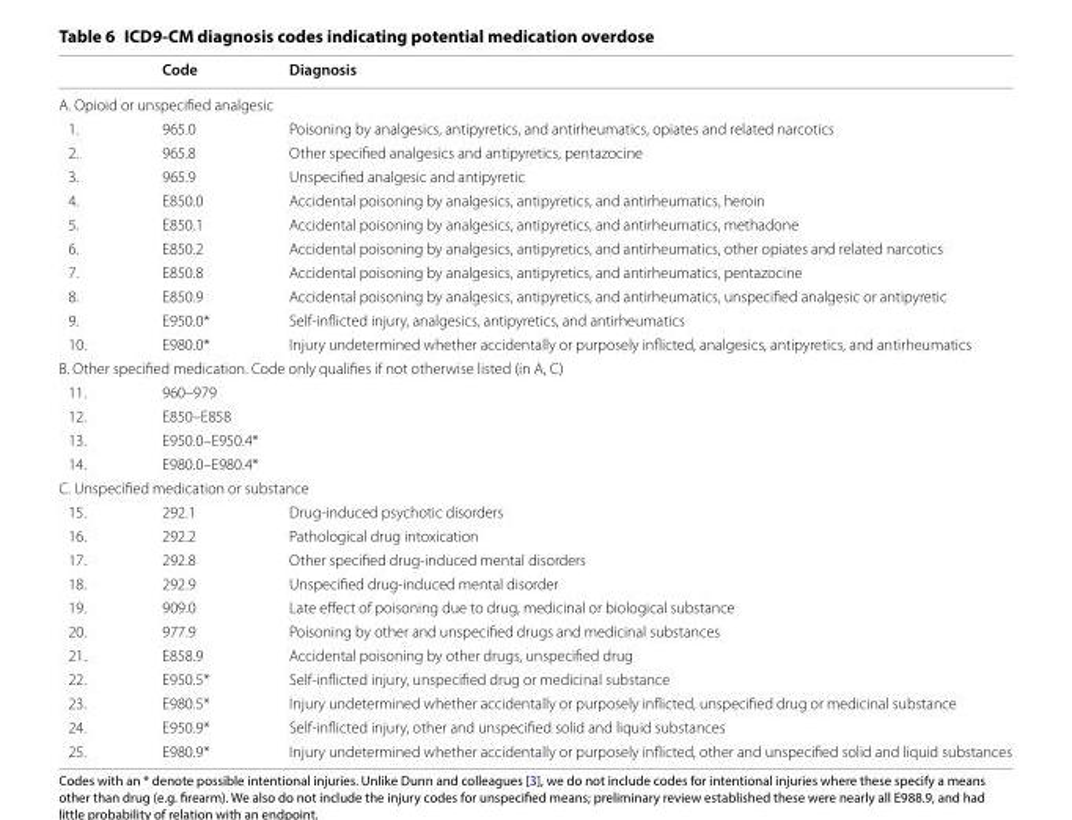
<table><thead><tr><td></td><td>Code</td><td>Diagnosis</td></tr></thead><tbody><tr><td colspan="3">A. Opioid or unspecified analgesic</td></tr><tr><td>1.</td><td>965.0</td><td>Poisoning by analgesics, antipyretics, and antirheumatics, opiates and related narcotics</td></tr><tr><td>2.</td><td>965.8</td><td>Other specified analgesics and antipyretics, pentazocine</td></tr><tr><td>3.</td><td>965.9</td><td>Unspecified analgesic and antipyretic</td></tr><tr><td>4.</td><td>E850.0</td><td>Accidental poisoning by analgesics, antipyretics, and antirheumatics, heroin</td></tr><tr><td>5.</td><td>E850.1</td><td>Accidental poisoning by analgesics, antipyretics, and antirheumatics, methadone</td></tr><tr><td>6.</td><td>E850.2</td><td>Accidental poisoning by analgesics, antipyretics, and antirheumatics, other opiates and related narcotics</td></tr><tr><td>7.</td><td>E850.8</td><td>Accidental poisoning by analgesics, antipyretics, and antirheumatics, pentazocine</td></tr><tr><td>8.</td><td>E850.9</td><td>Accidental poisoning by analgesics, antipyretics, and antirheumatics, unspecified analgesic or antipyretic</td></tr><tr><td>9.</td><td>E950.0*</td><td>Self-inflicted injury, analgesics, antipyretics, and antirheumatics</td></tr><tr><td>10.</td><td>E980.0*</td><td>Injury undetermined whether accidentally or purposely inflicted, analgesics, antipyretics, and antirheumatics</td></tr><tr><td colspan="3">B. Other specified medication. Code only qualifies if not otherwise listed (in A, C)</td></tr><tr><td>11.</td><td colspan="2">960–979</td></tr><tr><td>12.</td><td colspan="2">E850–E858</td></tr><tr><td>13.</td><td colspan="2">E950.0–E950.4*</td></tr><tr><td>14.</td><td colspan="2">E980.0–E980.4*</td></tr><tr><td colspan="3">C. Unspecified medication or substance</td></tr><tr><td>15.</td><td>292.1</td><td>Drug-induced psychotic disorders</td></tr><tr><td>16.</td><td>292.2</td><td>Pathological drug intoxication</td></tr><tr><td>17.</td><td>292.8</td><td>Other specified drug-induced mental disorders</td></tr><tr><td>18.</td><td>292.9</td><td>Unspecified drug-induced mental disorder</td></tr><tr><td>19.</td><td>909.0</td><td>Late effect of poisoning due to drug, medicinal or biological substance</td></tr><tr><td>20.</td><td>977.9</td><td>Poisoning by other and unspecified drugs and medicinal substances</td></tr><tr><td>21.</td><td>E858.9</td><td>Accidental poisoning by other drugs, unspecified drug</td></tr><tr><td>22.</td><td>E950.5*</td><td>Self-inflicted injury, unspecified drug or medicinal substance</td></tr><tr><td>23.</td><td>E980.5*</td><td>Injury undetermined whether accidentally or purposely inflicted, unspecified drug or medicinal substance</td></tr><tr><td>24.</td><td>E950.9*</td><td>Self-inflicted injury, other and unspecified solid and liquid substances</td></tr><tr><td>25.</td><td>E980.9*</td><td>Injury undetermined whether accidentally or purposely inflicted, other and unspecified solid and liquid substances</td></tr></tbody></table>